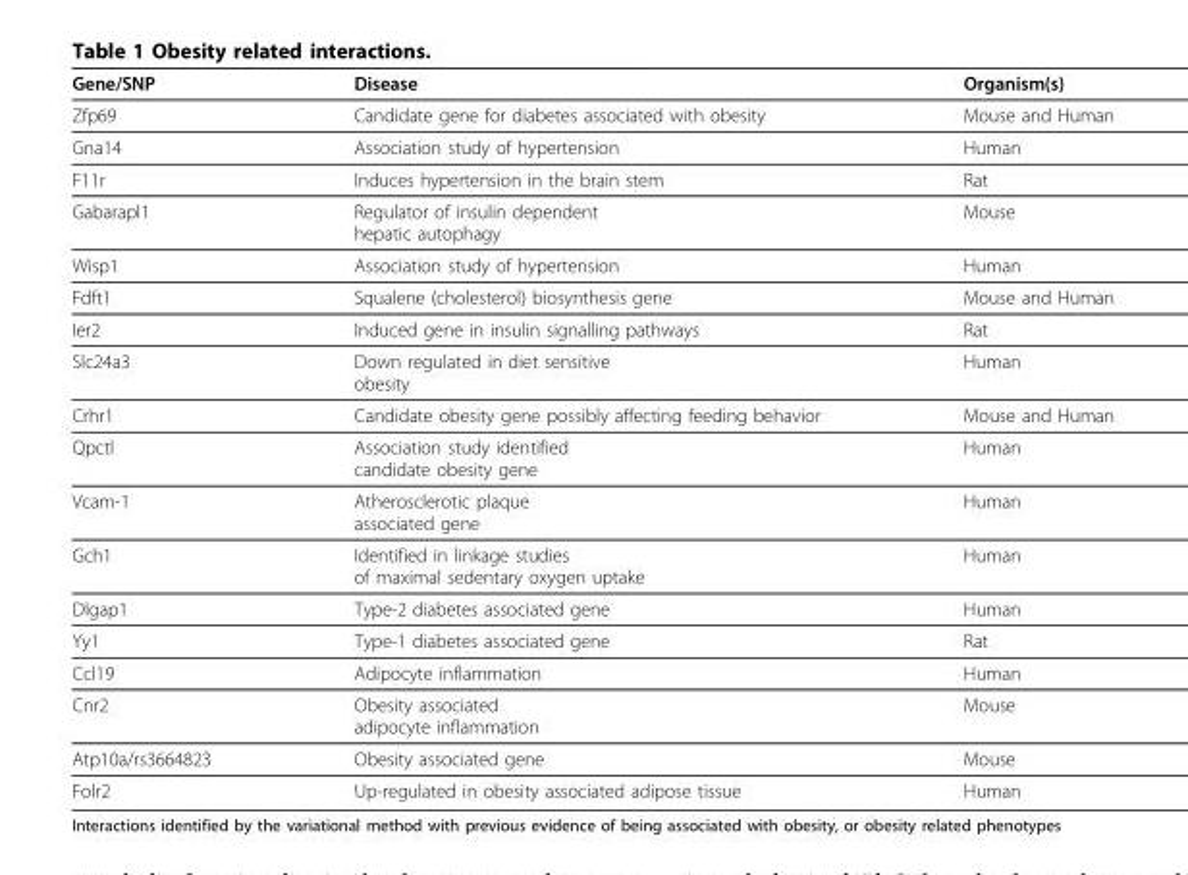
<table><thead><tr><td>Gene/SNP</td><td>Disease</td><td>Organism(s)</td></tr></thead><tbody><tr><td>Zfp69</td><td>Candidate gene for diabetes associated with obesity</td><td>Mouse and Human</td></tr><tr><td>Gna14</td><td>Association study of hypertension</td><td>Human</td></tr><tr><td>F11r</td><td>Induces hypertension in the brain stem</td><td>Rat</td></tr><tr><td>Gabarapl1</td><td>Regulator of insulin dependent hepatic autophagy</td><td>Mouse</td></tr><tr><td>Wisp1</td><td>Association study of hypertension</td><td>Human</td></tr><tr><td>Fdft1</td><td>Squalene (cholesterol) biosynthesis gene</td><td>Mouse and Human</td></tr><tr><td>Ier2</td><td>Induced gene in insulin signalling pathways</td><td>Rat</td></tr><tr><td>Slc24a3</td><td>Down regulated in diet sensitive obesity</td><td>Human</td></tr><tr><td>Crhr1</td><td>Candidate obesity gene possibly affecting feeding behavior</td><td>Mouse and Human</td></tr><tr><td>Qpctl</td><td>Association study identified candidate obesity gene</td><td>Human</td></tr><tr><td>Vcam-1</td><td>Atherosclerotic plaque associated gene</td><td>Human</td></tr><tr><td>Gch1</td><td>Identified in linkage studies of maximal sedentary oxygen uptake</td><td>Human</td></tr><tr><td>Dlgap1</td><td>Type-2 diabetes associated gene</td><td>Human</td></tr><tr><td>Yy1</td><td>Type-1 diabetes associated gene</td><td>Rat</td></tr><tr><td>Ccl19</td><td>Adipocyte inflammation</td><td>Human</td></tr><tr><td>Cnr2</td><td>Obesity associated adipocyte inflammation</td><td>Mouse</td></tr><tr><td>Atp10a/rs3664823</td><td>Obesity associated gene</td><td>Mouse</td></tr><tr><td>Folr2</td><td>Up-regulated in obesity associated adipose tissue</td><td>Human</td></tr></tbody></table>